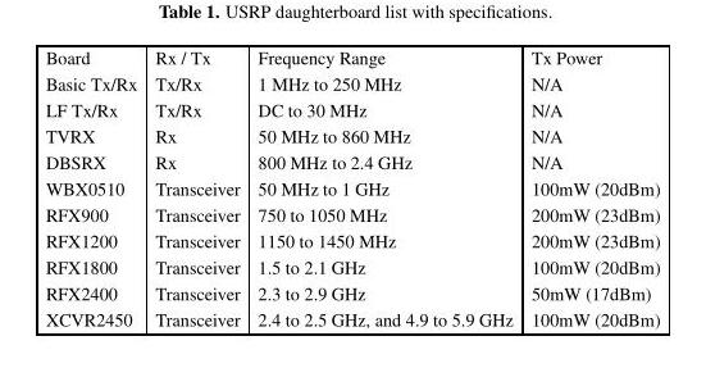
<table><tbody><tr><td>Board</td><td>Rx / Tx</td><td>Frequency Range</td><td>Tx Power</td></tr><tr><td>Basic Tx/Rx</td><td>Tx/Rx</td><td>1 MHz to 250 MHz</td><td>N/A</td></tr><tr><td>LF Tx/Rx</td><td>Tx/Rx</td><td>DC to 30 MHz</td><td>N/A</td></tr><tr><td>TVRX</td><td>Rx</td><td>50 MHz to 860 MHz</td><td>N/A</td></tr><tr><td>DBSRX</td><td>Rx</td><td>800 MHz to 2.4 GHz</td><td>N/A</td></tr><tr><td>WBX0510</td><td>Transceiver</td><td>50 MHz to 1 GHz</td><td>100mW (20dBm)</td></tr><tr><td>RFX900</td><td>Transceiver</td><td>750 to 1050 MHz</td><td>200mW (23dBm)</td></tr><tr><td>RFX1200</td><td>Transceiver</td><td>1150 to 1450 MHz</td><td>200mW (23dBm)</td></tr><tr><td>RFX1800</td><td>Transceiver</td><td>1.5 to 2.1 GHz</td><td>100mW (20dBm)</td></tr><tr><td>RFX2400</td><td>Transceiver</td><td>2.3 to 2.9 GHz</td><td>50mW (17dBm)</td></tr><tr><td>XCVR2450</td><td>Transceiver</td><td>2.4 to 2.5 GHz, and 4.9 to 5.9 GHz</td><td>100mW (20dBm)</td></tr></tbody></table>